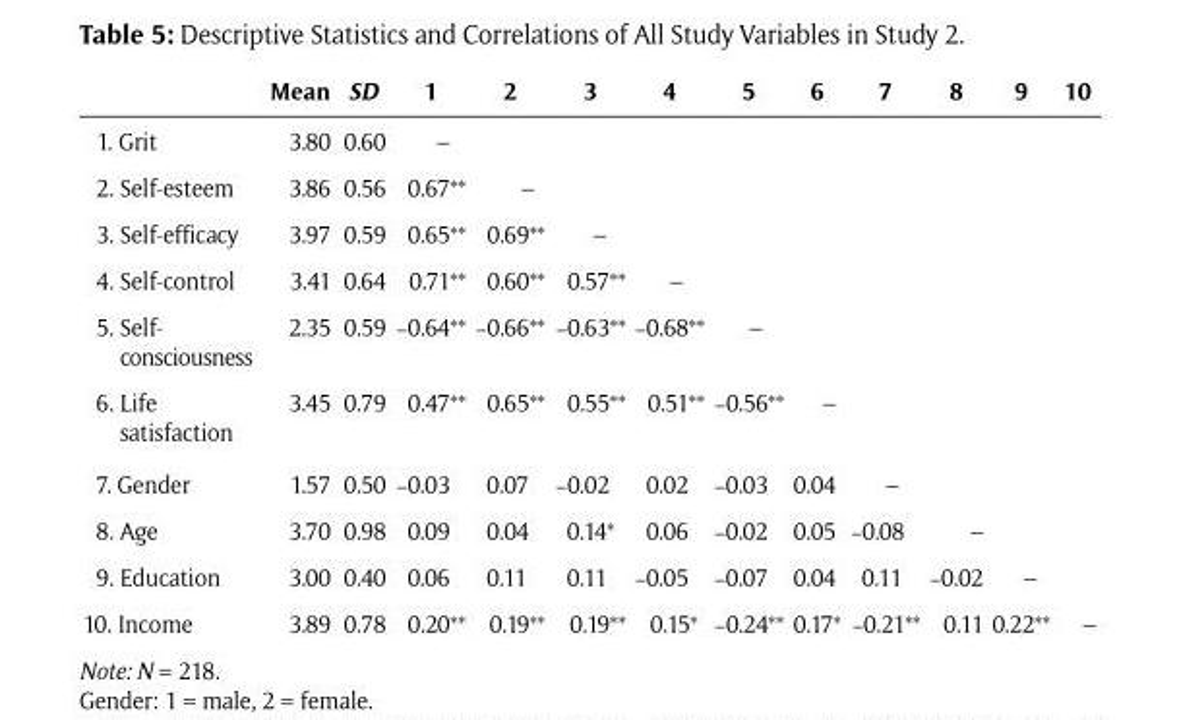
<table><thead><tr><td></td><td>Mean</td><td>SD</td><td>1</td><td>2</td><td>3</td><td>4</td><td>5</td><td>6</td><td>7</td><td>8</td><td>9</td><td>10</td></tr></thead><tbody><tr><td>1. Grit</td><td>3.80</td><td>0.60</td><td>–</td><td></td><td></td><td></td><td></td><td></td><td></td><td></td><td></td><td></td></tr><tr><td>2. Self-esteem</td><td>3.86</td><td>0.56</td><td>0.67**</td><td>–</td><td></td><td></td><td></td><td></td><td></td><td></td><td></td><td></td></tr><tr><td>3. Self-efficacy</td><td>3.97</td><td>0.59</td><td>0.65**</td><td>0.69**</td><td>–</td><td></td><td></td><td></td><td></td><td></td><td></td><td></td></tr><tr><td>4. Self-control</td><td>3.41</td><td>0.64</td><td>0.71**</td><td>0.60**</td><td>0.57**</td><td>–</td><td></td><td></td><td></td><td></td><td></td><td></td></tr><tr><td>5. Self- consciousness</td><td>2.35</td><td>0.59</td><td>−0.64**</td><td>−0.66**</td><td>−0.63**</td><td>−0.68**</td><td>–</td><td></td><td></td><td></td><td></td><td></td></tr><tr><td>6. Life satisfaction</td><td>3.45</td><td>0.79</td><td>0.47**</td><td>0.65**</td><td>0.55**</td><td>0.51**</td><td>−0.56**</td><td>–</td><td></td><td></td><td></td><td></td></tr><tr><td>7. Gender</td><td>1.57</td><td>0.50</td><td>−0.03</td><td>0.07</td><td>−0.02</td><td>0.02</td><td>−0.03</td><td>0.04</td><td>–</td><td></td><td></td><td></td></tr><tr><td>8. Age</td><td>3.70</td><td>0.98</td><td>0.09</td><td>0.04</td><td>0.14*</td><td>0.06</td><td>−0.02</td><td>0.05</td><td>−0.08</td><td>–</td><td></td><td></td></tr><tr><td>9. Education</td><td>3.00</td><td>0.40</td><td>0.06</td><td>0.11</td><td>0.11</td><td>−0.05</td><td>−0.07</td><td>0.04</td><td>0.11</td><td>−0.02</td><td>–</td><td></td></tr><tr><td>10. Income</td><td>3.89</td><td>0.78</td><td>0.20**</td><td>0.19**</td><td>0.19**</td><td>0.15*</td><td>−0.24**</td><td>0.17*</td><td>−0.21**</td><td>0.11</td><td>0.22**</td><td>–</td></tr></tbody></table>